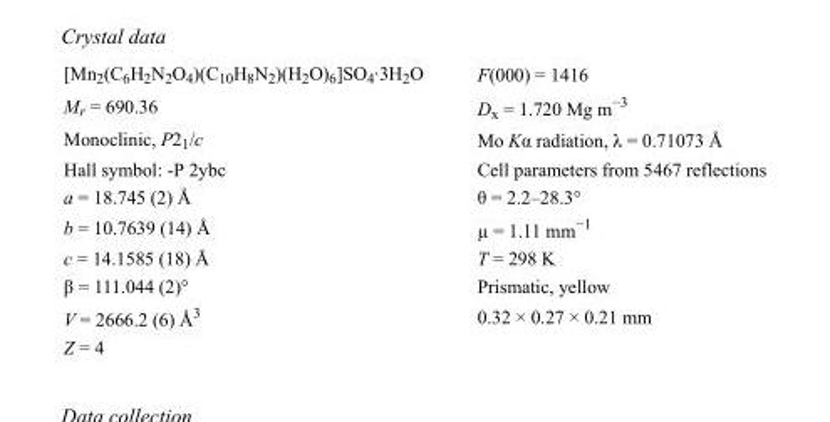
<table><tbody><tr><td>[Mn<sub>2</sub>(C<sub>6</sub>H<sub>2</sub>N<sub>2</sub>O<sub>4</sub>)(C<sub>10</sub>H<sub>8</sub>N<sub>2</sub>)(H<sub>2</sub>O)<sub>6</sub>]SO<sub>4</sub>·3H<sub>2</sub>O</td><td>F(000) = 1416</td></tr><tr><td>M<sub>r</sub> = 690.36</td><td>D<sub>x</sub> = 1.720 Mg m<sup>−3</sup></td></tr><tr><td>Monoclinic, P2<sub>1</sub>/c</td><td>Mo Kα radiation, λ = 0.71073 Å</td></tr><tr><td>Hall symbol: -P 2ybc</td><td>Cell parameters from 5467 reflections</td></tr><tr><td>a = 18.745 (2) Å</td><td>θ = 2.2–28.3°</td></tr><tr><td>b = 10.7639 (14) Å</td><td>µ = 1.11 mm<sup>−1</sup></td></tr><tr><td>c = 14.1585 (18) Å</td><td>T = 298 K</td></tr><tr><td>β = 111.044 (2)°</td><td>Prismatic, yellow</td></tr><tr><td>V = 2666.2 (6) Å<sup>3</sup></td><td>0.32 × 0.27 × 0.21 mm</td></tr><tr><td>Z = 4</td><td></td></tr></tbody></table>